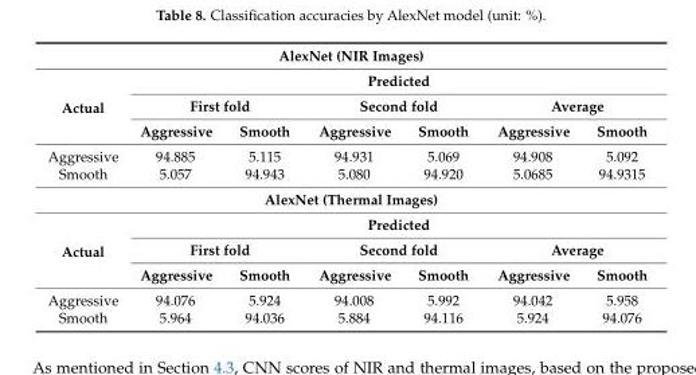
<table><tbody><tr><td colspan="7">AlexNet (NIR Images)</td></tr><tr><td rowspan="3">Actual</td><td colspan="6">Predicted</td></tr><tr><td colspan="2">First fold</td><td colspan="2">Second fold</td><td colspan="2">Average</td></tr><tr><td>Aggressive</td><td>Smooth</td><td>Aggressive</td><td>Smooth</td><td>Aggressive</td><td>Smooth</td></tr><tr><td>Aggressive</td><td>94.885</td><td>5.115</td><td>94.931</td><td>5.069</td><td>94.908</td><td>5.092</td></tr><tr><td>Smooth</td><td>5.057</td><td>94.943</td><td>5.080</td><td>94.920</td><td>5.0685</td><td>94.9315</td></tr><tr><td colspan="7">AlexNet (Thermal Images)</td></tr><tr><td rowspan="3">Actual</td><td colspan="6">Predicted</td></tr><tr><td colspan="2">First fold</td><td colspan="2">Second fold</td><td colspan="2">Average</td></tr><tr><td>Aggressive</td><td>Smooth</td><td>Aggressive</td><td>Smooth</td><td>Aggressive</td><td>Smooth</td></tr><tr><td>Aggressive</td><td>94.076</td><td>5.924</td><td>94.008</td><td>5.992</td><td>94.042</td><td>5.958</td></tr><tr><td>Smooth</td><td>5.964</td><td>94.036</td><td>5.884</td><td>94.116</td><td>5.924</td><td>94.076</td></tr></tbody></table>